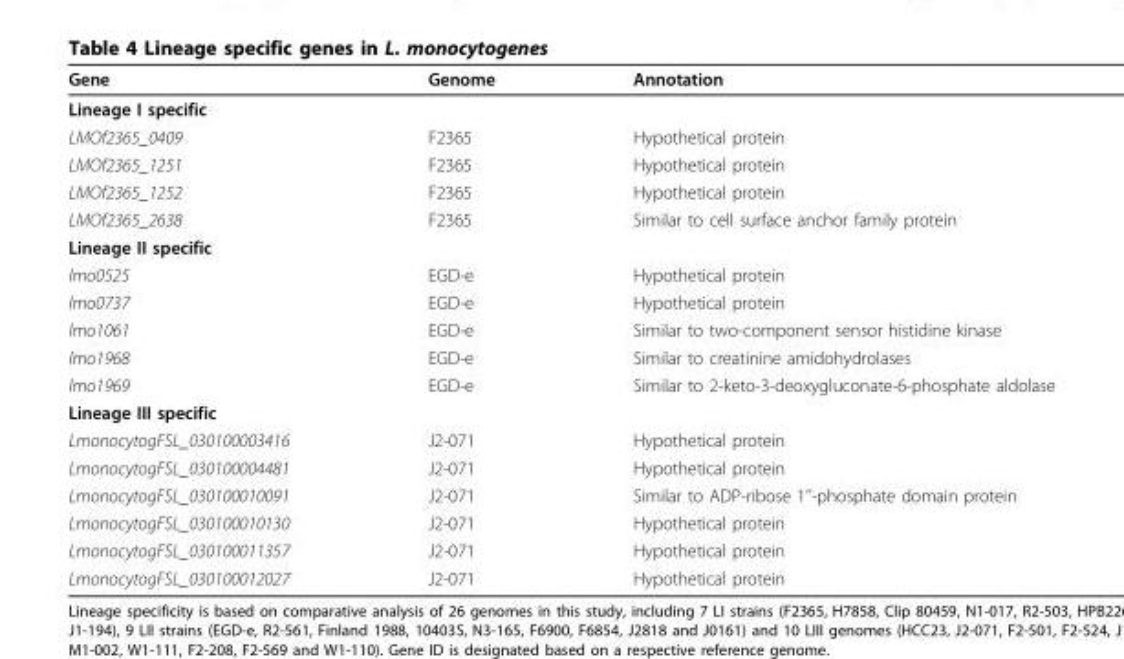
<table><thead><tr><td>Gene</td><td>Genome</td><td>Annotation</td></tr></thead><tbody><tr><td colspan="3">Lineage I specific</td></tr><tr><td>LMOf2365_0409</td><td>F2365</td><td>Hypothetical protein</td></tr><tr><td>LMOf2365_1251</td><td>F2365</td><td>Hypothetical protein</td></tr><tr><td>LMOf2365_1252</td><td>F2365</td><td>Hypothetical protein</td></tr><tr><td>LMOf2365_2638</td><td>F2365</td><td>Similar to cell surface anchor family protein</td></tr><tr><td colspan="3">Lineage II specific</td></tr><tr><td>lmo0525</td><td>EGD-e</td><td>Hypothetical protein</td></tr><tr><td>lmo0737</td><td>EGD-e</td><td>Hypothetical protein</td></tr><tr><td>lmo1061</td><td>EGD-e</td><td>Similar to two-component sensor histidine kinase</td></tr><tr><td>lmo1968</td><td>EGD-e</td><td>Similar to creatinine amidohydrolases</td></tr><tr><td>lmo1969</td><td>EGD-e</td><td>Similar to 2-keto-3-deoxygluconate-6-phosphate aldolase</td></tr><tr><td colspan="3">Lineage III specific</td></tr><tr><td>LmonocytogFSL_030100003416</td><td>J2-071</td><td>Hypothetical protein</td></tr><tr><td>LmonocytogFSL_030100004481</td><td>J2-071</td><td>Hypothetical protein</td></tr><tr><td>LmonocytogFSL_030100010091</td><td>J2-071</td><td>Similar to ADP-ribose 1’’-phosphate domain protein</td></tr><tr><td>LmonocytogFSL_030100010130</td><td>J2-071</td><td>Hypothetical protein</td></tr><tr><td>LmonocytogFSL_030100011357</td><td>J2-071</td><td>Hypothetical protein</td></tr><tr><td>LmonocytogFSL_030100012027</td><td>J2-071</td><td>Hypothetical protein</td></tr></tbody></table>